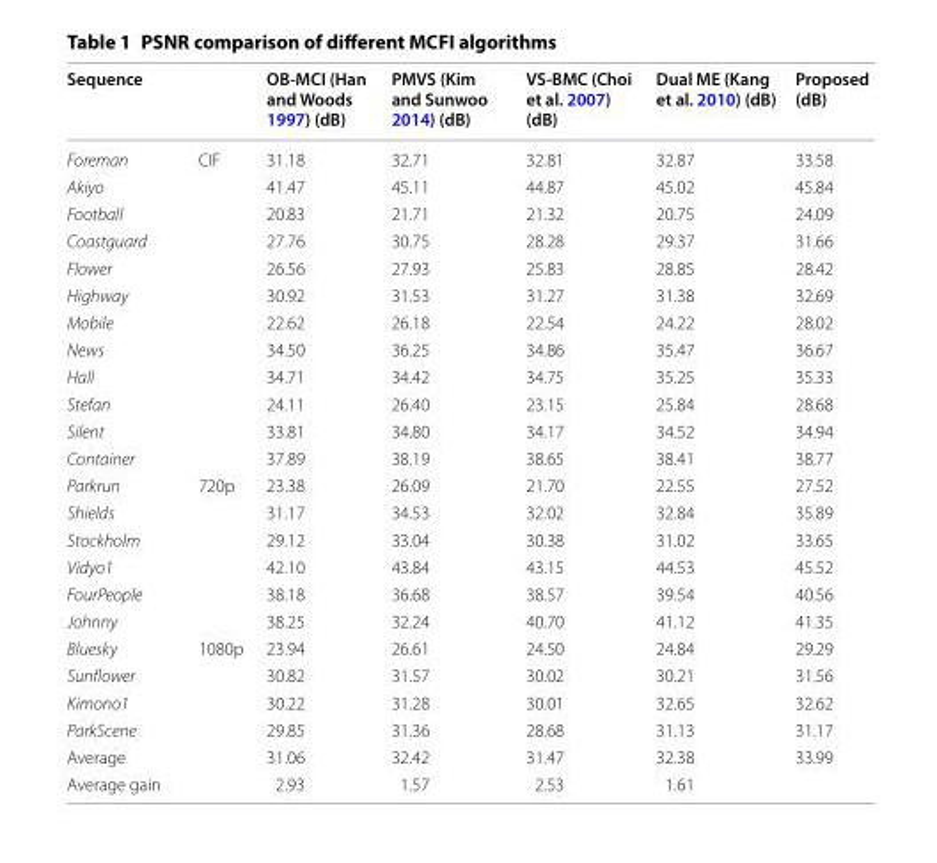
<table><thead><tr><td>Sequence</td><td></td><td>OB‑MCI (Han and Woods 1997) (dB)</td><td>PMVS (Kim and Sunwoo 2014) (dB)</td><td>VS‑BMC (Choi et al. 2007) (dB)</td><td>Dual ME (Kang et al. 2010) (dB)</td><td>Proposed (dB)</td></tr></thead><tbody><tr><td>Foreman</td><td rowspan="12">CIF</td><td>31.18</td><td>32.71</td><td>32.81</td><td>32.87</td><td>33.58</td></tr><tr><td>Akiyo</td><td>41.47</td><td>45.11</td><td>44.87</td><td>45.02</td><td>45.84</td></tr><tr><td>Football</td><td>20.83</td><td>21.71</td><td>21.32</td><td>20.75</td><td>24.09</td></tr><tr><td>Coastguard</td><td>27.76</td><td>30.75</td><td>28.28</td><td>29.37</td><td>31.66</td></tr><tr><td>Flower</td><td>26.56</td><td>27.93</td><td>25.83</td><td>28.85</td><td>28.42</td></tr><tr><td>Highway</td><td>30.92</td><td>31.53</td><td>31.27</td><td>31.38</td><td>32.69</td></tr><tr><td>Mobile</td><td>22.62</td><td>26.18</td><td>22.54</td><td>24.22</td><td>28.02</td></tr><tr><td>News</td><td>34.50</td><td>36.25</td><td>34.86</td><td>35.47</td><td>36.67</td></tr><tr><td>Hall</td><td>34.71</td><td>34.42</td><td>34.75</td><td>35.25</td><td>35.33</td></tr><tr><td>Stefan</td><td>24.11</td><td>26.40</td><td>23.15</td><td>25.84</td><td>28.68</td></tr><tr><td>Silent</td><td>33.81</td><td>34.80</td><td>34.17</td><td>34.52</td><td>34.94</td></tr><tr><td>Container</td><td>37.89</td><td>38.19</td><td>38.65</td><td>38.41</td><td>38.77</td></tr><tr><td>Parkrun</td><td rowspan="6">720p</td><td>23.38</td><td>26.09</td><td>21.70</td><td>22.55</td><td>27.52</td></tr><tr><td>Shields</td><td>31.17</td><td>34.53</td><td>32.02</td><td>32.84</td><td>35.89</td></tr><tr><td>Stockholm</td><td>29.12</td><td>33.04</td><td>30.38</td><td>31.02</td><td>33.65</td></tr><tr><td>Vidyo1</td><td>42.10</td><td>43.84</td><td>43.15</td><td>44.53</td><td>45.52</td></tr><tr><td>FourPeople</td><td>38.18</td><td>36.68</td><td>38.57</td><td>39.54</td><td>40.56</td></tr><tr><td>Johnny</td><td>38.25</td><td>32.24</td><td>40.70</td><td>41.12</td><td>41.35</td></tr><tr><td>Bluesky</td><td rowspan="4">1080p</td><td>23.94</td><td>26.61</td><td>24.50</td><td>24.84</td><td>29.29</td></tr><tr><td>Sunflower</td><td>30.82</td><td>31.57</td><td>30.02</td><td>30.21</td><td>31.56</td></tr><tr><td>Kimono1</td><td>30.22</td><td>31.28</td><td>30.01</td><td>32.65</td><td>32.62</td></tr><tr><td>ParkScene</td><td>29.85</td><td>31.36</td><td>28.68</td><td>31.13</td><td>31.17</td></tr><tr><td>Average</td><td></td><td>31.06</td><td>32.42</td><td>31.47</td><td>32.38</td><td>33.99</td></tr><tr><td>Average gain</td><td></td><td>2.93</td><td>1.57</td><td>2.53</td><td>1.61</td><td></td></tr></tbody></table>